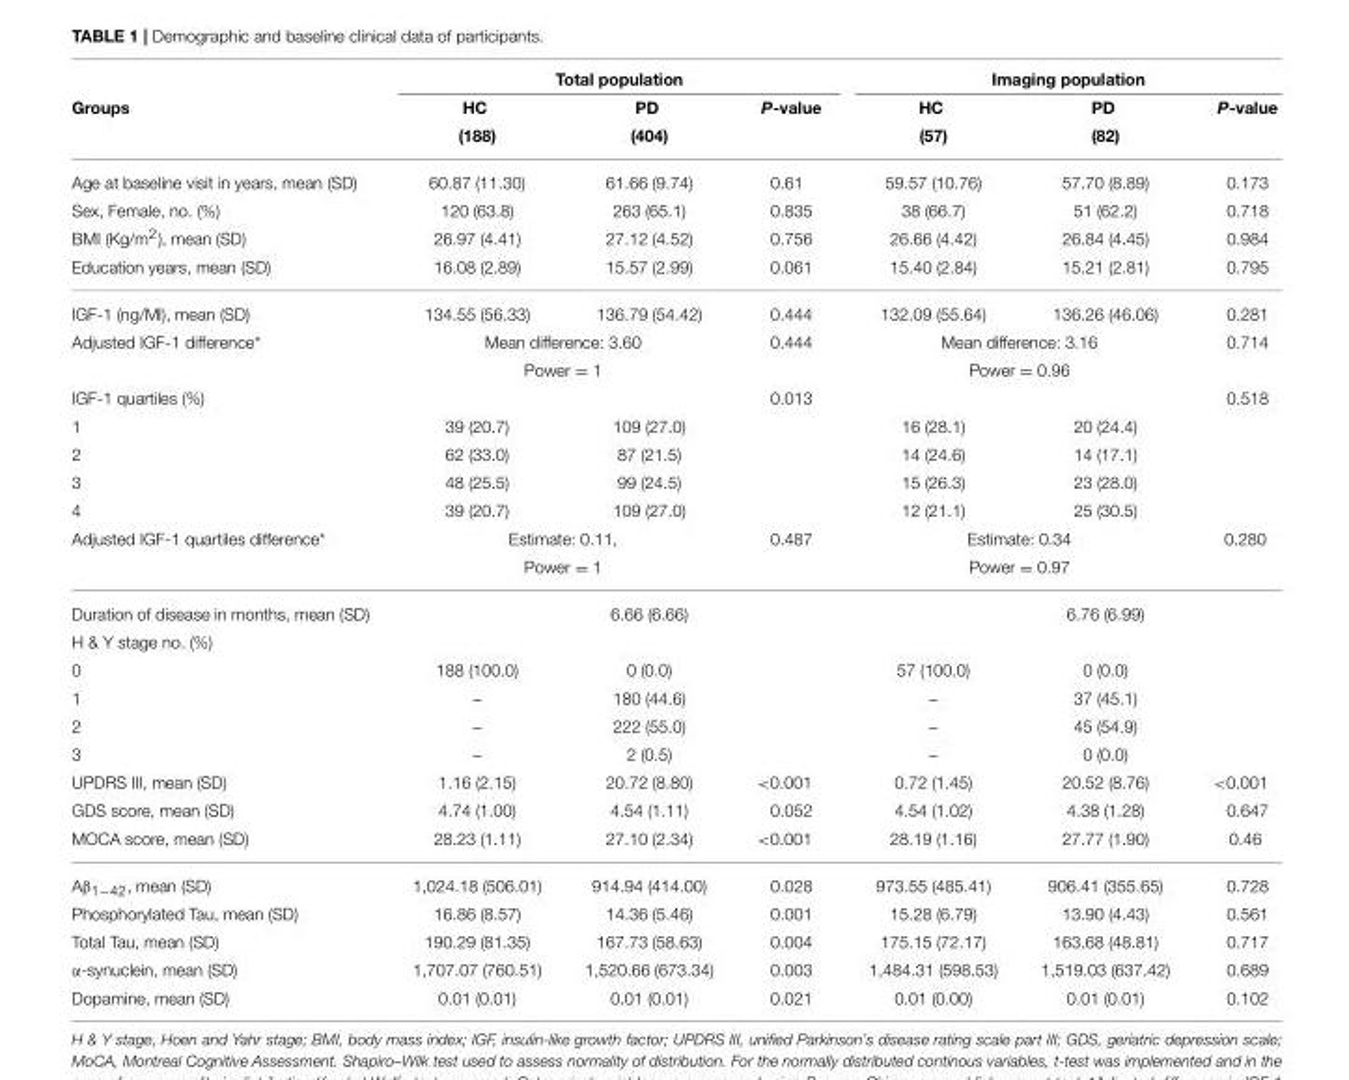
<table><thead><tr><td rowspan="2">Groups</td><td colspan="3">Total population</td><td colspan="3">Imaging population</td></tr><tr><td>HC</td><td>PD</td><td>P-value</td><td>HC</td><td>PD</td><td>P-value</td></tr></thead><tbody><tr><td></td><td>(188)</td><td>(404)</td><td></td><td>(57)</td><td>(82)</td><td></td></tr><tr><td>Age at baseline visit in years, mean (SD)</td><td>60.87 (11.30)</td><td>61.66 (9.74)</td><td>0.61</td><td>59.57 (10.76)</td><td>57.70 (8.89)</td><td>0.173</td></tr><tr><td>Sex, Female, no. (%)</td><td>120 (63.8)</td><td>263 (65.1)</td><td>0.835</td><td>38 (66.7)</td><td>51 (62.2)</td><td>0.718</td></tr><tr><td>BMI (Kg/m<sup>2</sup>), mean (SD)</td><td>26.97 (4.41)</td><td>27.12 (4.52)</td><td>0.756</td><td>26.66 (4.42)</td><td>26.84 (4.45)</td><td>0.984</td></tr><tr><td>Education years, mean (SD)</td><td>16.08 (2.89)</td><td>15.57 (2.99)</td><td>0.061</td><td>15.40 (2.84)</td><td>15.21 (2.81)</td><td>0.795</td></tr><tr><td>IGF-1 (ng/Ml), mean (SD)</td><td>134.55 (56.33)</td><td>136.79 (54.42)</td><td>0.444</td><td>132.09 (55.64)</td><td>136.26 (46.06)</td><td>0.281</td></tr><tr><td rowspan="2">Adjusted IGF-1 difference*</td><td colspan="2">Mean difference: 3.60</td><td>0.444</td><td colspan="2">Mean difference: 3.16</td><td>0.714</td></tr><tr><td colspan="2">Power = 1</td><td></td><td colspan="2">Power = 0.96</td><td></td></tr><tr><td>IGF-1 quartiles (%)</td><td></td><td></td><td>0.013</td><td></td><td></td><td>0.518</td></tr><tr><td>1</td><td>39 (20.7)</td><td>109 (27.0)</td><td></td><td>16 (28.1)</td><td>20 (24.4)</td><td></td></tr><tr><td>2</td><td>62 (33.0)</td><td>87 (21.5)</td><td></td><td>14 (24.6)</td><td>14 (17.1)</td><td></td></tr><tr><td>3</td><td>48 (25.5)</td><td>99 (24.5)</td><td></td><td>15 (26.3)</td><td>23 (28.0)</td><td></td></tr><tr><td>4</td><td>39 (20.7)</td><td>109 (27.0)</td><td></td><td>12 (21.1)</td><td>25 (30.5)</td><td></td></tr><tr><td rowspan="2">Adjusted IGF-1 quartiles difference*</td><td colspan="2">Estimate: 0.11,</td><td>0.487</td><td colspan="2">Estimate: 0.34</td><td>0.280</td></tr><tr><td colspan="2">Power = 1</td><td></td><td colspan="2">Power = 0.97</td><td></td></tr><tr><td>Duration of disease in months, mean (SD)</td><td></td><td>6.66 (6.66)</td><td></td><td></td><td>6.76 (6.99)</td><td></td></tr><tr><td colspan="7">H &amp; Y stage no. (%)</td></tr><tr><td>0</td><td>188 (100.0)</td><td>0 (0.0)</td><td></td><td>57 (100.0)</td><td>0 (0.0)</td><td></td></tr><tr><td>1</td><td>–</td><td>180 (44.6)</td><td></td><td>–</td><td>37 (45.1)</td><td></td></tr><tr><td>2</td><td>–</td><td>222 (55.0)</td><td></td><td>–</td><td>45 (54.9)</td><td></td></tr><tr><td>3</td><td>–</td><td>2 (0.5)</td><td></td><td>–</td><td>0 (0.0)</td><td></td></tr><tr><td>UPDRS III, mean (SD)</td><td>1.16 (2.15)</td><td>20.72 (8.80)</td><td>&lt;0.001</td><td>0.72 (1.45)</td><td>20.52 (8.76)</td><td>&lt;0.001</td></tr><tr><td>GDS score, mean (SD)</td><td>4.74 (1.00)</td><td>4.54 (1.11)</td><td>0.052</td><td>4.54 (1.02)</td><td>4.38 (1.28)</td><td>0.647</td></tr><tr><td>MOCA score, mean (SD)</td><td>28.23 (1.11)</td><td>27.10 (2.34)</td><td>&lt;0.001</td><td>28.19 (1.16)</td><td>27.77 (1.90)</td><td>0.46</td></tr><tr><td>Aβ<sub>1−42</sub>, mean (SD)</td><td>1,024.18 (506.01)</td><td>914.94 (414.00)</td><td>0.028</td><td>973.55 (485.41)</td><td>906.41 (355.65)</td><td>0.728</td></tr><tr><td>Phosphorylated Tau, mean (SD)</td><td>16.86 (8.57)</td><td>14.36 (5.46)</td><td>0.001</td><td>15.28 (6.79)</td><td>13.90 (4.43)</td><td>0.561</td></tr><tr><td>Total Tau, mean (SD)</td><td>190.29 (81.35)</td><td>167.73 (58.63)</td><td>0.004</td><td>175.15 (72.17)</td><td>163.68 (48.81)</td><td>0.717</td></tr><tr><td>α-synuclein, mean (SD)</td><td>1,707.07 (760.51)</td><td>1,520.66 (673.34)</td><td>0.003</td><td>1,484.31 (598.53)</td><td>1,519.03 (637.42)</td><td>0.689</td></tr><tr><td>Dopamine, mean (SD)</td><td>0.01 (0.01)</td><td>0.01 (0.01)</td><td>0.021</td><td>0.01 (0.00)</td><td>0.01 (0.01)</td><td>0.102</td></tr></tbody></table>